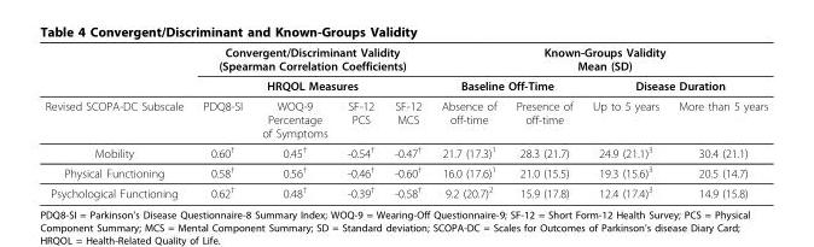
<table><thead><tr><td rowspan="3">Revised SCOPA-DC Subscale</td><td rowspan="2" colspan="4">Convergent/Discriminant Validity (Spearman Correlation Coefficients) HRQOL Measures</td><td colspan="4">Known-Groups Validity Mean (SD)</td></tr><tr><td colspan="2">Baseline Off-Time</td><td colspan="2">Disease Duration</td></tr><tr><td>PDQ8-SI</td><td>WOQ-9 Percentage of Symptoms</td><td>SF-12 PCS</td><td>SF-12 MCS</td><td>Absence of off-time</td><td>Presence of off-time</td><td>Up to 5 years</td><td>More than 5 years</td></tr></thead><tbody><tr><td>Mobility</td><td>0.60<sup>†</sup></td><td>0.45<sup>†</sup></td><td>-0.54<sup>†</sup></td><td>-0.47<sup>†</sup></td><td>21.7 (17.3)<sup>1</sup></td><td>28.3 (21.7)</td><td>24.9 (21.1)<sup>3</sup></td><td>30.4 (21.1)</td></tr><tr><td>Physical Functioning</td><td>0.58<sup>†</sup></td><td>0.56<sup>†</sup></td><td>-0.46<sup>†</sup></td><td>-0.60<sup>†</sup></td><td>16.0 (17.6)<sup>1</sup></td><td>21.0 (15.5)</td><td>19.3 (15.6)<sup>3</sup></td><td>20.5 (14.7)</td></tr><tr><td>Psychological Functioning</td><td>0.62<sup>†</sup></td><td>0.48<sup>†</sup></td><td>-0.39<sup>†</sup></td><td>-0.58<sup>†</sup></td><td>9.2 (20.7)<sup>2</sup></td><td>15.9 (17.8)</td><td>12.4 (17.4)<sup>3</sup></td><td>14.9 (15.8)</td></tr></tbody></table>